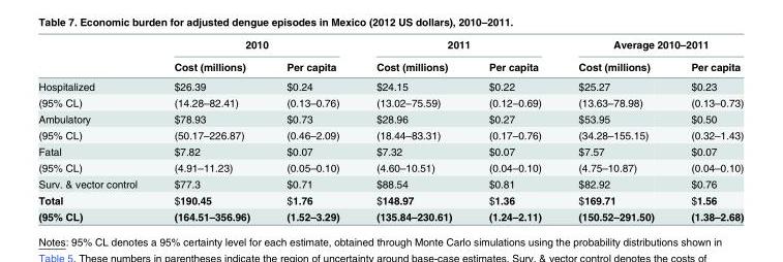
<table><thead><tr><td rowspan="2"></td><td colspan="2">2010</td><td colspan="2">2011</td><td colspan="2">Average 2010–2011</td></tr><tr><td>Cost (millions)</td><td>Per capita</td><td>Cost (millions)</td><td>Per capita</td><td>Cost (millions)</td><td>Per capita</td></tr></thead><tbody><tr><td>Hospitalized</td><td>$26.39</td><td>$0.24</td><td>$24.15</td><td>$0.22</td><td>$25.27</td><td>$0.23</td></tr><tr><td>(95% CL)</td><td>(14.28–82.41)</td><td>(0.13–0.76)</td><td>(13.02–75.59)</td><td>(0.12–0.69)</td><td>(13.63–78.98)</td><td>(0.13–0.73)</td></tr><tr><td>Ambulatory</td><td>$78.93</td><td>$0.73</td><td>$28.96</td><td>$0.27</td><td>$53.95</td><td>$0.50</td></tr><tr><td>(95% CL)</td><td>(50.17–226.87)</td><td>(0.46–2.09)</td><td>(18.44–83.31)</td><td>(0.17–0.76)</td><td>(34.28–155.15)</td><td>(0.32–1.43)</td></tr><tr><td>Fatal</td><td>$7.82</td><td>$0.07</td><td>$7.32</td><td>$0.07</td><td>$7.57</td><td>$0.07</td></tr><tr><td>(95% CL)</td><td>(4.91–11.23)</td><td>(0.05–0.10)</td><td>(4.60–10.51)</td><td>(0.04–0.10)</td><td>(4.75–10.87)</td><td>(0.04–0.10)</td></tr><tr><td>Surv. &amp; vector control</td><td>$77.3</td><td>$0.71</td><td>$88.54</td><td>$0.81</td><td>$82.92</td><td>$0.76</td></tr><tr><td>Total</td><td>$190.45</td><td>$1.76</td><td>$148.97</td><td>$1.36</td><td>$169.71</td><td>$1.56</td></tr><tr><td>(95% CL)</td><td>(164.51–356.96)</td><td>(1.52–3.29)</td><td>(135.84–230.61)</td><td>(1.24–2.11)</td><td>(150.52–291.50)</td><td>(1.38–2.68)</td></tr></tbody></table>